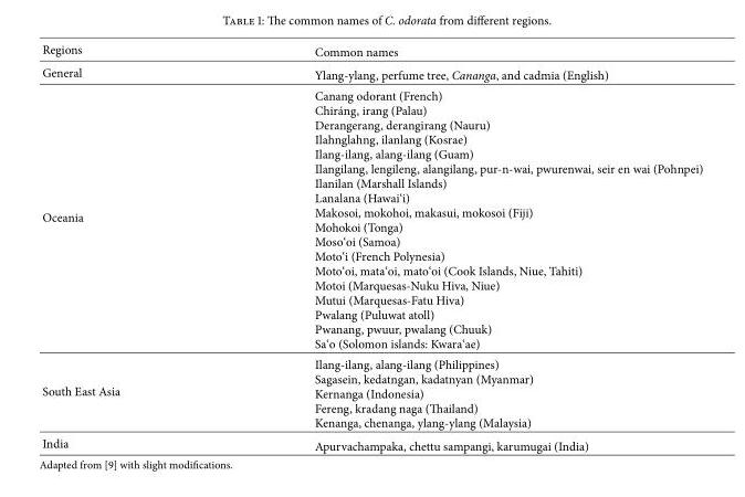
<table><thead><tr><td>Regions</td><td>Common names</td></tr></thead><tbody><tr><td>General</td><td>Ylang-ylang, perfume tree, Cananga, and cadmia (English)</td></tr><tr><td>Oceania</td><td>Canang odorant (French) Chir´ang, irang (Palau) Derangerang, derangirang (Nauru) Ilahnglahng, ilanlang (Kosrae) Ilang-ilang, alang-ilang (Guam) Ilangilang, lengileng, alangilang, pur-n-wai, pwurenwai, seir en wai (Pohnpei) Ilanilan (Marshall Islands) Lanalana (Hawai‘i) Makosoi, mokohoi, makasui, mokosoi (Fiji) Mohokoi (Tonga) Moso‘oi (Samoa) Moto‘i (French Polynesia) Moto‘oi, mata‘oi, mato‘oi (Cook Islands, Niue, Tahiti) Motoi (Marquesas-Nuku Hiva, Niue) Mutui (Marquesas-Fatu Hiva) Pwalang (Puluwat atoll) Pwanang, pwuur, pwalang (Chuuk) Sa‘o (Solomon islands: Kwara‘ae)</td></tr><tr><td>South East Asia</td><td>Ilang-ilang, alang-ilang (Philippines) Sagasein, kedatngan, kadatnyan (Myanmar) Kernanga (Indonesia) Fereng, kradang naga (Thailand) Kenanga, chenanga, ylang-ylang (Malaysia)</td></tr><tr><td>India</td><td>Apurvachampaka, chettu sampangi, karumugai (India)</td></tr></tbody></table>